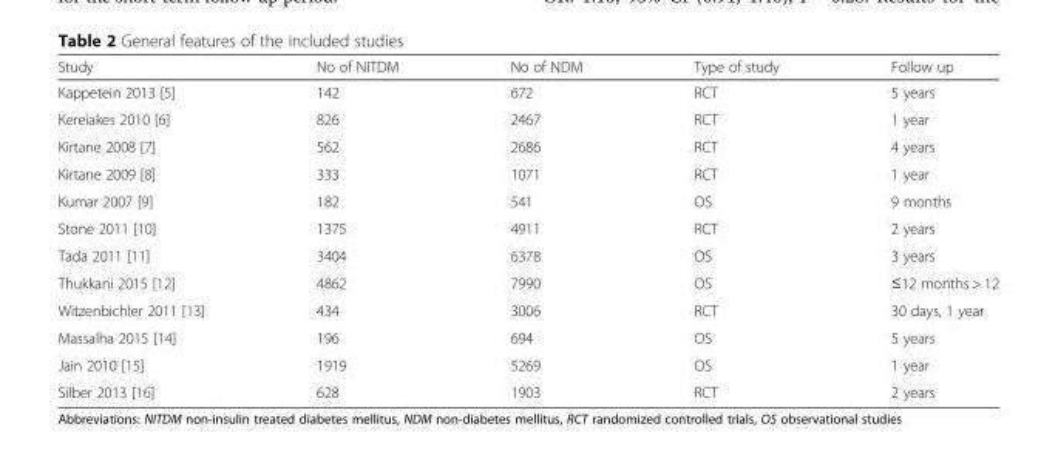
<table><thead><tr><td>Study</td><td>No of NITDM</td><td>No of NDM</td><td>Type of study</td><td>Follow up</td></tr></thead><tbody><tr><td>Kappetein 2013 [5]</td><td>142</td><td>672</td><td>RCT</td><td>5 years</td></tr><tr><td>Kereiakes 2010 [6]</td><td>826</td><td>2467</td><td>RCT</td><td>1 year</td></tr><tr><td>Kirtane 2008 [7]</td><td>562</td><td>2686</td><td>RCT</td><td>4 years</td></tr><tr><td>Kirtane 2009 [8]</td><td>333</td><td>1071</td><td>RCT</td><td>1 year</td></tr><tr><td>Kumar 2007 [9]</td><td>182</td><td>541</td><td>OS</td><td>9 months</td></tr><tr><td>Stone 2011 [10]</td><td>1375</td><td>4911</td><td>RCT</td><td>2 years</td></tr><tr><td>Tada 2011 [11]</td><td>3404</td><td>6378</td><td>OS</td><td>3 years</td></tr><tr><td>Thukkani 2015 [12]</td><td>4862</td><td>7990</td><td>OS</td><td>≤12 months &gt; 12</td></tr><tr><td>Witzenbichler 2011 [13]</td><td>434</td><td>3006</td><td>RCT</td><td>30 days, 1 year</td></tr><tr><td>Massalha 2015 [14]</td><td>196</td><td>694</td><td>OS</td><td>5 years</td></tr><tr><td>Jain 2010 [15]</td><td>1919</td><td>5269</td><td>OS</td><td>1 year</td></tr><tr><td>Silber 2013 [16]</td><td>628</td><td>1903</td><td>RCT</td><td>2 years</td></tr></tbody></table>